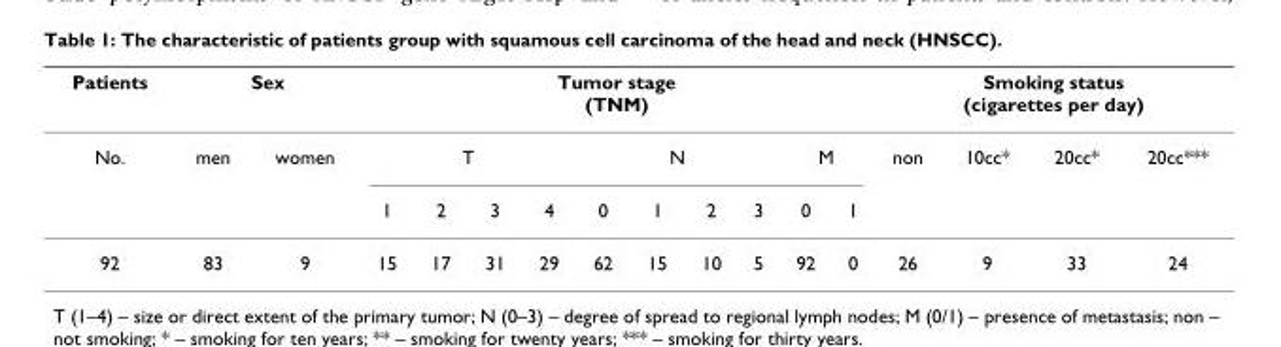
<table><thead><tr><td rowspan="3">Patients No.</td><td colspan="2">Sex</td><td colspan="10">Tumor stage (TNM)</td><td colspan="4">Smoking status (cigarettes per day)</td></tr><tr><td rowspan="2">men</td><td rowspan="2">women</td><td colspan="4">T</td><td colspan="4">N</td><td colspan="2">M</td><td rowspan="2">non</td><td rowspan="2">10cc*</td><td rowspan="2">20cc*</td><td rowspan="2">20cc***</td></tr><tr><td>1</td><td>2</td><td>3</td><td>4</td><td>0</td><td>1</td><td>2</td><td>3</td><td>0</td><td>1</td></tr></thead><tbody><tr><td>92</td><td>83</td><td>9</td><td>15</td><td>17</td><td>31</td><td>29</td><td>62</td><td>15</td><td>10</td><td>5</td><td>92</td><td>0</td><td>26</td><td>9</td><td>33</td><td>24</td></tr></tbody></table>